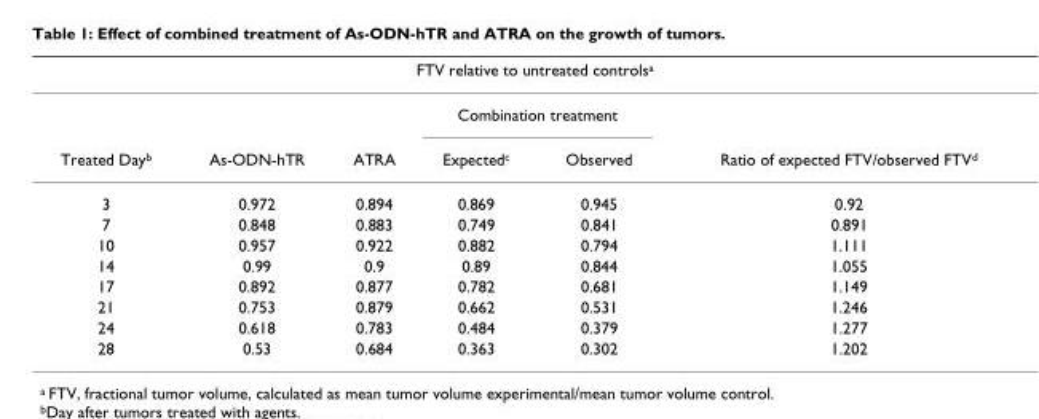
<table><thead><tr><td colspan="6">FTV relative to untreated controls<sup>a</sup></td></tr><tr><td rowspan="2">Treated Day<sup>b</sup></td><td rowspan="2">As-ODN-hTR</td><td rowspan="2">ATRA</td><td colspan="2">Combination treatment</td><td rowspan="2">Ratio of expected FTV/observed FTV<sup>d</sup></td></tr><tr><td>Expected<sup>c</sup></td><td>Observed</td></tr></thead><tbody><tr><td>3</td><td>0.972</td><td>0.894</td><td>0.869</td><td>0.945</td><td>0.92</td></tr><tr><td>7</td><td>0.848</td><td>0.883</td><td>0.749</td><td>0.841</td><td>0.891</td></tr><tr><td>10</td><td>0.957</td><td>0.922</td><td>0.882</td><td>0.794</td><td>1.111</td></tr><tr><td>14</td><td>0.99</td><td>0.9</td><td>0.89</td><td>0.844</td><td>1.055</td></tr><tr><td>17</td><td>0.892</td><td>0.877</td><td>0.782</td><td>0.681</td><td>1.149</td></tr><tr><td>21</td><td>0.753</td><td>0.879</td><td>0.662</td><td>0.531</td><td>1.246</td></tr><tr><td>24</td><td>0.618</td><td>0.783</td><td>0.484</td><td>0.379</td><td>1.277</td></tr><tr><td>28</td><td>0.53</td><td>0.684</td><td>0.363</td><td>0.302</td><td>1.202</td></tr></tbody></table>